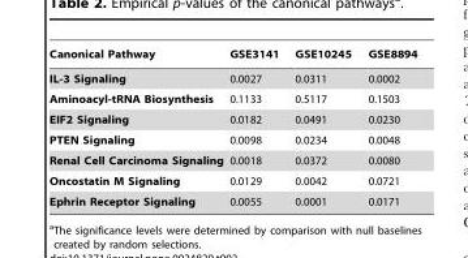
<table><thead><tr><td>Canonical Pathway</td><td>GSE3141</td><td>GSE10245</td><td>GSE8894</td></tr></thead><tbody><tr><td>IL-3 Signaling</td><td>0.0027</td><td>0.0311</td><td>0.0002</td></tr><tr><td>Aminoacyl-tRNA Biosynthesis</td><td>0.1133</td><td>0.5117</td><td>0.1503</td></tr><tr><td>EIF2 Signaling</td><td>0.0182</td><td>0.0491</td><td>0.0230</td></tr><tr><td>PTEN Signaling</td><td>0.0098</td><td>0.0234</td><td>0.0048</td></tr><tr><td>Renal Cell Carcinoma Signaling</td><td>0.0018</td><td>0.0372</td><td>0.0080</td></tr><tr><td>Oncostatin M Signaling</td><td>0.0129</td><td>0.0042</td><td>0.0721</td></tr><tr><td>Ephrin Receptor Signaling</td><td>0.0055</td><td>0.0001</td><td>0.0171</td></tr></tbody></table>